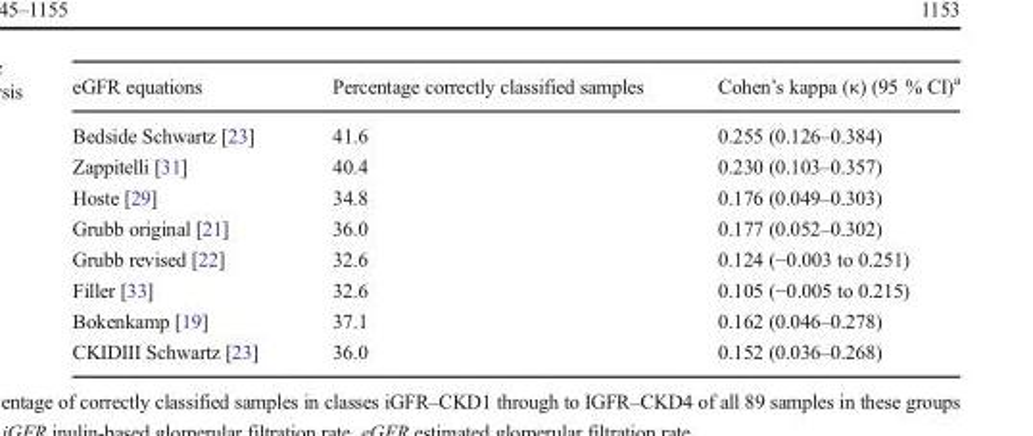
<table><thead><tr><td>eGFR equations</td><td>Percentage correctly classified samples</td><td>Cohen’s kappa (κ) (95 % CI)<sup>a</sup></td></tr></thead><tbody><tr><td>Bedside Schwartz [23]</td><td>41.6</td><td>0.255 (0.126–0.384)</td></tr><tr><td>Zappitelli [31]</td><td>40.4</td><td>0.230 (0.103–0.357)</td></tr><tr><td>Hoste [29]</td><td>34.8</td><td>0.176 (0.049–0.303)</td></tr><tr><td>Grubb original [21]</td><td>36.0</td><td>0.177 (0.052–0.302)</td></tr><tr><td>Grubb revised [22]</td><td>32.6</td><td>0.124 (−0.003 to 0.251)</td></tr><tr><td>Filler [33]</td><td>32.6</td><td>0.105 (−0.005 to 0.215)</td></tr><tr><td>Bokenkamp [19]</td><td>37.1</td><td>0.162 (0.046–0.278)</td></tr><tr><td>CKIDIII Schwartz [23]</td><td>36.0</td><td>0.152 (0.036–0.268)</td></tr></tbody></table>